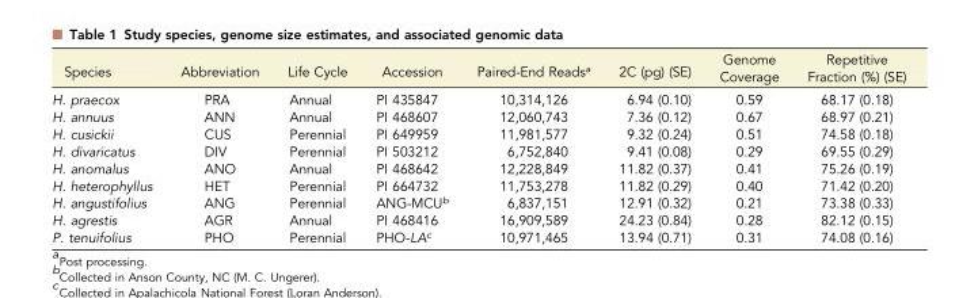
<table><thead><tr><td>Species</td><td>Abbreviation</td><td>Life Cycle</td><td>Accession</td><td>Paired-End Reads<sup>a</sup></td><td>2C (pg) (SE)</td><td>Genome Coverage</td><td>Repetitive Fraction (%) (SE)</td></tr></thead><tbody><tr><td>H. praecox</td><td>PRA</td><td>Annual</td><td>PI 435847</td><td>10,314,126</td><td>6.94 (0.10)</td><td>0.59</td><td>68.17 (0.18)</td></tr><tr><td>H. annuus</td><td>ANN</td><td>Annual</td><td>PI 468607</td><td>12,060,743</td><td>7.36 (0.12)</td><td>0.67</td><td>68.97 (0.21)</td></tr><tr><td>H. cusickii</td><td>CUS</td><td>Perennial</td><td>PI 649959</td><td>11,981,577</td><td>9.32 (0.24)</td><td>0.51</td><td>74.58 (0.18)</td></tr><tr><td>H. divaricatus</td><td>DIV</td><td>Perennial</td><td>PI 503212</td><td>6,752,840</td><td>9.41 (0.08)</td><td>0.29</td><td>69.55 (0.29)</td></tr><tr><td>H. anomalus</td><td>ANO</td><td>Annual</td><td>PI 468642</td><td>12,228,849</td><td>11.82 (0.37)</td><td>0.41</td><td>75.26 (0.19)</td></tr><tr><td>H. heterophyllus</td><td>HET</td><td>Perennial</td><td>PI 664732</td><td>11,753,278</td><td>11.82 (0.29)</td><td>0.40</td><td>71.42 (0.20)</td></tr><tr><td>H. angustifolius</td><td>ANG</td><td>Perennial</td><td>ANG-MCU<sup>b</sup></td><td>6,837,151</td><td>12.91 (0.32)</td><td>0.21</td><td>73.38 (0.33)</td></tr><tr><td>H. agrestis</td><td>AGR</td><td>Annual</td><td>PI 468416</td><td>16,909,589</td><td>24.23 (0.84)</td><td>0.28</td><td>82.12 (0.15)</td></tr><tr><td>P. tenuifolius</td><td>PHO</td><td>Perennial</td><td>PHO-LA<sup>c</sup></td><td>10,971,465</td><td>13.94 (0.71)</td><td>0.31</td><td>74.08 (0.16)</td></tr></tbody></table>